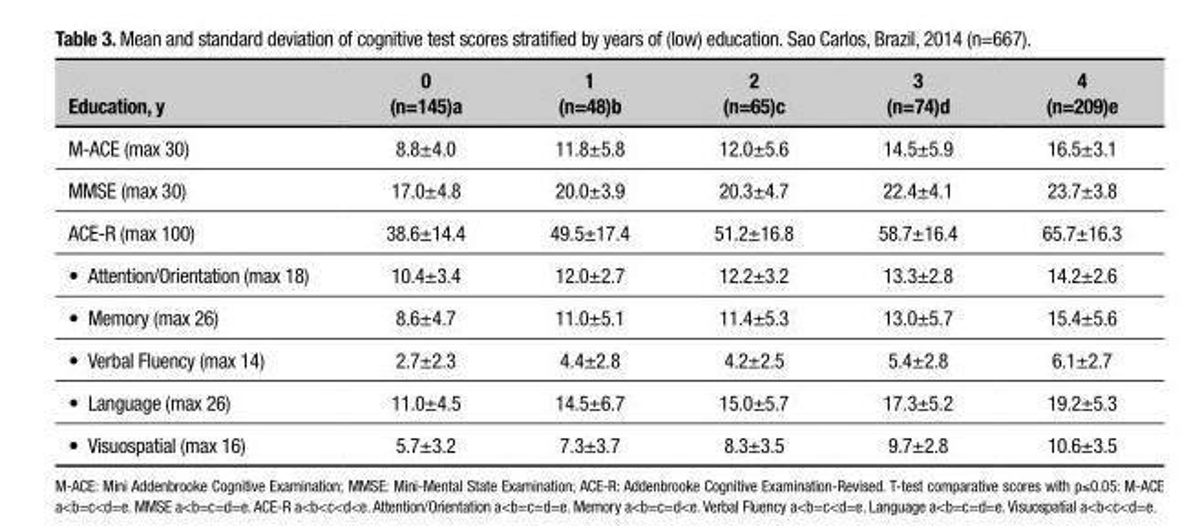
<table><thead><tr><td>Education, y</td><td>0 (n=145)a</td><td>1 (n=48)b</td><td>2 (n=65)c</td><td>3 (n=74)d</td><td>4 (n=209)e</td></tr></thead><tbody><tr><td>M-ACE (max 30)</td><td>8.8±4.0</td><td>11.8±5.8</td><td>12.0±5.6</td><td>14.5±5.9</td><td>16.5±3.1</td></tr><tr><td>MMSE (max 30)</td><td>17.0±4.8</td><td>20.0±3.9</td><td>20.3±4.7</td><td>22.4±4.1</td><td>23.7±3.8</td></tr><tr><td>ACE-R (max 100)</td><td>38.6±14.4</td><td>49.5±17.4</td><td>51.2±16.8</td><td>58.7±16.4</td><td>65.7±16.3</td></tr><tr><td>• Attention/Orientation (max 18)</td><td>10.4±3.4</td><td>12.0±2.7</td><td>12.2±3.2</td><td>13.3±2.8</td><td>14.2±2.6</td></tr><tr><td>• Memory (max 26)</td><td>8.6±4.7</td><td>11.0±5.1</td><td>11.4±5.3</td><td>13.0±5.7</td><td>15.4±5.6</td></tr><tr><td>• Verbal Fluency (max 14)</td><td>2.7±2.3</td><td>4.4±2.8</td><td>4.2±2.5</td><td>5.4±2.8</td><td>6.1±2.7</td></tr><tr><td>• Language (max 26)</td><td>11.0±4.5</td><td>14.5±6.7</td><td>15.0±5.7</td><td>17.3±5.2</td><td>19.2±5.3</td></tr><tr><td>• Visuospatial (max 16)</td><td>5.7±3.2</td><td>7.3±3.7</td><td>8.3±3.5</td><td>9.7±2.8</td><td>10.6±3.5</td></tr></tbody></table>